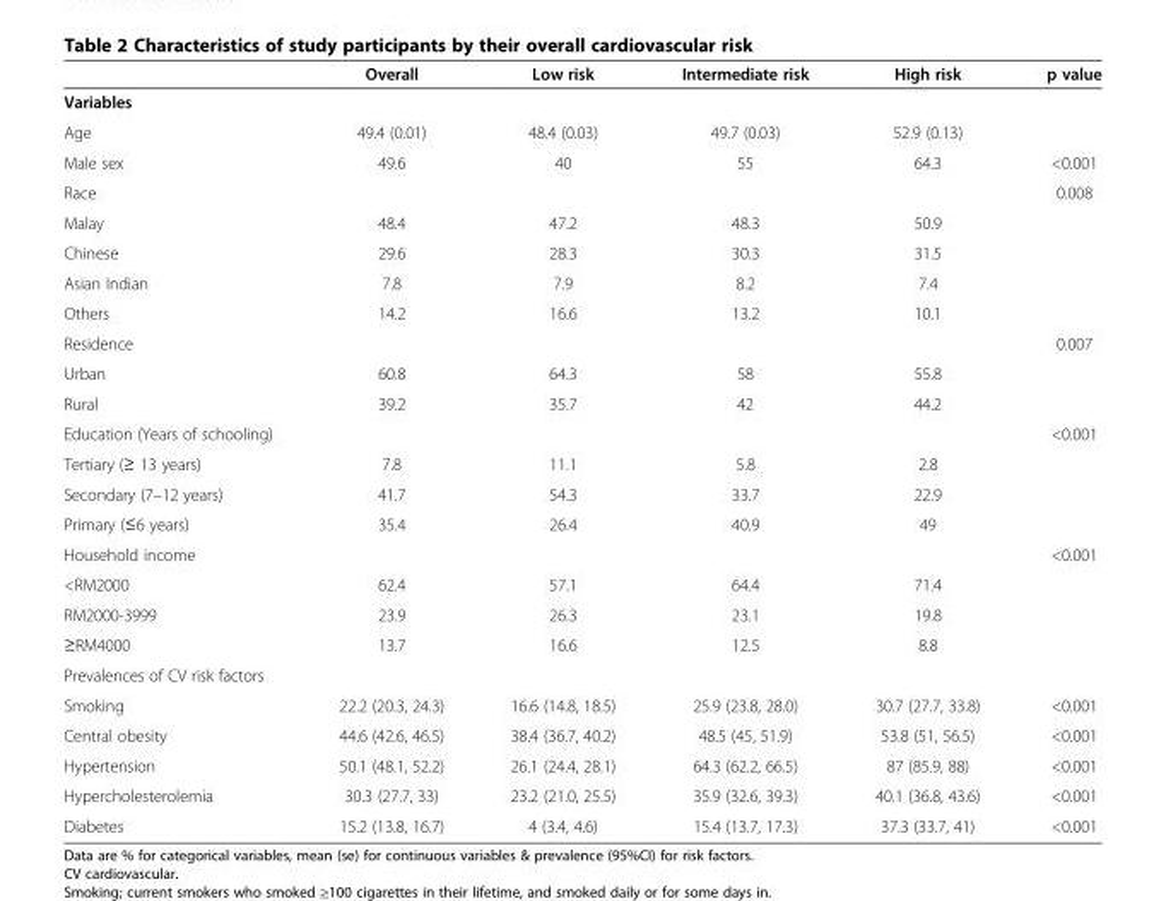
<table><thead><tr><td></td><td>Overall</td><td>Low risk</td><td>Intermediate risk</td><td>High risk</td><td>p value</td></tr></thead><tbody><tr><td colspan="6">Variables</td></tr><tr><td>Age</td><td>49.4 (0.01)</td><td>48.4 (0.03)</td><td>49.7 (0.03)</td><td>52.9 (0.13)</td><td></td></tr><tr><td>Male sex</td><td>49.6</td><td>40</td><td>55</td><td>64.3</td><td>&lt;0.001</td></tr><tr><td>Race</td><td></td><td></td><td></td><td></td><td>0.008</td></tr><tr><td>Malay</td><td>48.4</td><td>47.2</td><td>48.3</td><td>50.9</td><td></td></tr><tr><td>Chinese</td><td>29.6</td><td>28.3</td><td>30.3</td><td>31.5</td><td></td></tr><tr><td>Asian Indian</td><td>7.8</td><td>7.9</td><td>8.2</td><td>7.4</td><td></td></tr><tr><td>Others</td><td>14.2</td><td>16.6</td><td>13.2</td><td>10.1</td><td></td></tr><tr><td>Residence</td><td></td><td></td><td></td><td></td><td>0.007</td></tr><tr><td>Urban</td><td>60.8</td><td>64.3</td><td>58</td><td>55.8</td><td></td></tr><tr><td>Rural</td><td>39.2</td><td>35.7</td><td>42</td><td>44.2</td><td></td></tr><tr><td>Education (Years of schooling)</td><td></td><td></td><td></td><td></td><td>&lt;0.001</td></tr><tr><td>Tertiary (≥ 13 years)</td><td>7.8</td><td>11.1</td><td>5.8</td><td>2.8</td><td></td></tr><tr><td>Secondary (7–12 years)</td><td>41.7</td><td>54.3</td><td>33.7</td><td>22.9</td><td></td></tr><tr><td>Primary (≤6 years)</td><td>35.4</td><td>26.4</td><td>40.9</td><td>49</td><td></td></tr><tr><td>Household income</td><td></td><td></td><td></td><td></td><td>&lt;0.001</td></tr><tr><td>&lt;RM2000</td><td>62.4</td><td>57.1</td><td>64.4</td><td>71.4</td><td></td></tr><tr><td>RM2000-3999</td><td>23.9</td><td>26.3</td><td>23.1</td><td>19.8</td><td></td></tr><tr><td>≥RM4000</td><td>13.7</td><td>16.6</td><td>12.5</td><td>8.8</td><td></td></tr><tr><td colspan="6">Prevalences of CV risk factors</td></tr><tr><td>Smoking</td><td>22.2 (20.3, 24.3)</td><td>16.6 (14.8, 18.5)</td><td>25.9 (23.8, 28.0)</td><td>30.7 (27.7, 33.8)</td><td>&lt;0.001</td></tr><tr><td>Central obesity</td><td>44.6 (42.6, 46.5)</td><td>38.4 (36.7, 40.2)</td><td>48.5 (45, 51.9)</td><td>53.8 (51, 56.5)</td><td>&lt;0.001</td></tr><tr><td>Hypertension</td><td>50.1 (48.1, 52.2)</td><td>26.1 (24.4, 28.1)</td><td>64.3 (62.2, 66.5)</td><td>87 (85.9, 88)</td><td>&lt;0.001</td></tr><tr><td>Hypercholesterolemia</td><td>30.3 (27.7, 33)</td><td>23.2 (21.0, 25.5)</td><td>35.9 (32.6, 39.3)</td><td>40.1 (36.8, 43.6)</td><td>&lt;0.001</td></tr><tr><td>Diabetes</td><td>15.2 (13.8, 16.7)</td><td>4 (3.4, 4.6)</td><td>15.4 (13.7, 17.3)</td><td>37.3 (33.7, 41)</td><td>&lt;0.001</td></tr></tbody></table>